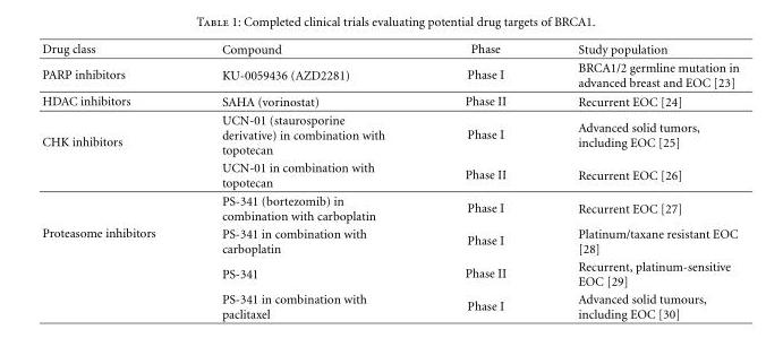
<table><thead><tr><td>Drug class</td><td>Compound</td><td>Phase</td><td>Study population</td></tr></thead><tbody><tr><td>PARP inhibitors</td><td>KU-0059436 (AZD2281)</td><td>Phase I</td><td>BRCA1/2 germline mutation in advanced breast and EOC [23]</td></tr><tr><td>HDAC inhibitors</td><td>SAHA (vorinostat)</td><td>Phase II</td><td>Recurrent EOC [24]</td></tr><tr><td rowspan="2">CHK inhibitors</td><td>UCN-01 (staurosporine derivative) in combination with topotecan</td><td>Phase I</td><td>Advanced solid tumors, including EOC [25]</td></tr><tr><td>UCN-01 in combination with topotecan</td><td>Phase II</td><td>Recurrent EOC [26]</td></tr><tr><td rowspan="4">Proteasome inhibitors</td><td>PS-341 (bortezomib) in combination with carboplatin</td><td>Phase I</td><td>Recurrent EOC [27]</td></tr><tr><td>PS-341 in combination with carboplatin</td><td>Phase I</td><td>Platinum/taxane resistant EOC [28]</td></tr><tr><td>PS-341</td><td>Phase II</td><td>Recurrent, platinum-sensitive EOC [29]</td></tr><tr><td>PS-341 in combination with paclitaxel</td><td>Phase I</td><td>Advanced solid tumours, including EOC [30]</td></tr></tbody></table>